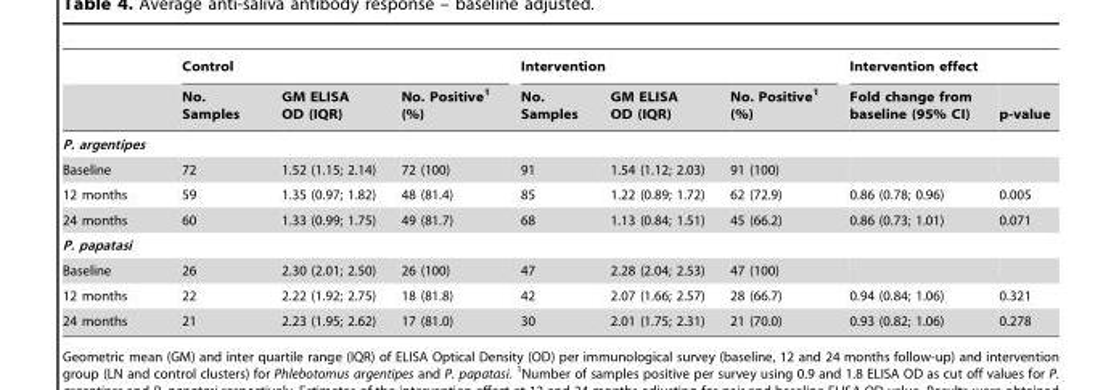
<table><thead><tr><td rowspan="2"></td><td colspan="3">Control</td><td colspan="3">Intervention</td><td colspan="2">Intervention effect</td></tr><tr><td>No. Samples</td><td>GM ELISA OD (IQR)</td><td>No. Positive<sup>1</sup> (%)</td><td>No. Samples</td><td>GM ELISA OD (IQR)</td><td>No. Positive<sup>1</sup> (%)</td><td>Fold change from baseline (95% CI)</td><td>p-value</td></tr></thead><tbody><tr><td colspan="9">P. argentipes</td></tr><tr><td>Baseline</td><td>72</td><td>1.52 (1.15; 2.14)</td><td>72 (100)</td><td>91</td><td>1.54 (1.12; 2.03)</td><td>91 (100)</td><td></td><td></td></tr><tr><td>12 months</td><td>59</td><td>1.35 (0.97; 1.82)</td><td>48 (81.4)</td><td>85</td><td>1.22 (0.89; 1.72)</td><td>62 (72.9)</td><td>0.86 (0.78; 0.96)</td><td>0.005</td></tr><tr><td>24 months</td><td>60</td><td>1.33 (0.99; 1.75)</td><td>49 (81.7)</td><td>68</td><td>1.13 (0.84; 1.51)</td><td>45 (66.2)</td><td>0.86 (0.73; 1.01)</td><td>0.071</td></tr><tr><td colspan="9">P. papatasi</td></tr><tr><td>Baseline</td><td>26</td><td>2.30 (2.01; 2.50)</td><td>26 (100)</td><td>47</td><td>2.28 (2.04; 2.53)</td><td>47 (100)</td><td></td><td></td></tr><tr><td>12 months</td><td>22</td><td>2.22 (1.92; 2.75)</td><td>18 (81.8)</td><td>42</td><td>2.07 (1.66; 2.57)</td><td>28 (66.7)</td><td>0.94 (0.84; 1.06)</td><td>0.321</td></tr><tr><td>24 months</td><td>21</td><td>2.23 (1.95; 2.62)</td><td>17 (81.0)</td><td>30</td><td>2.01 (1.75; 2.31)</td><td>21 (70.0)</td><td>0.93 (0.82; 1.06)</td><td>0.278</td></tr></tbody></table>